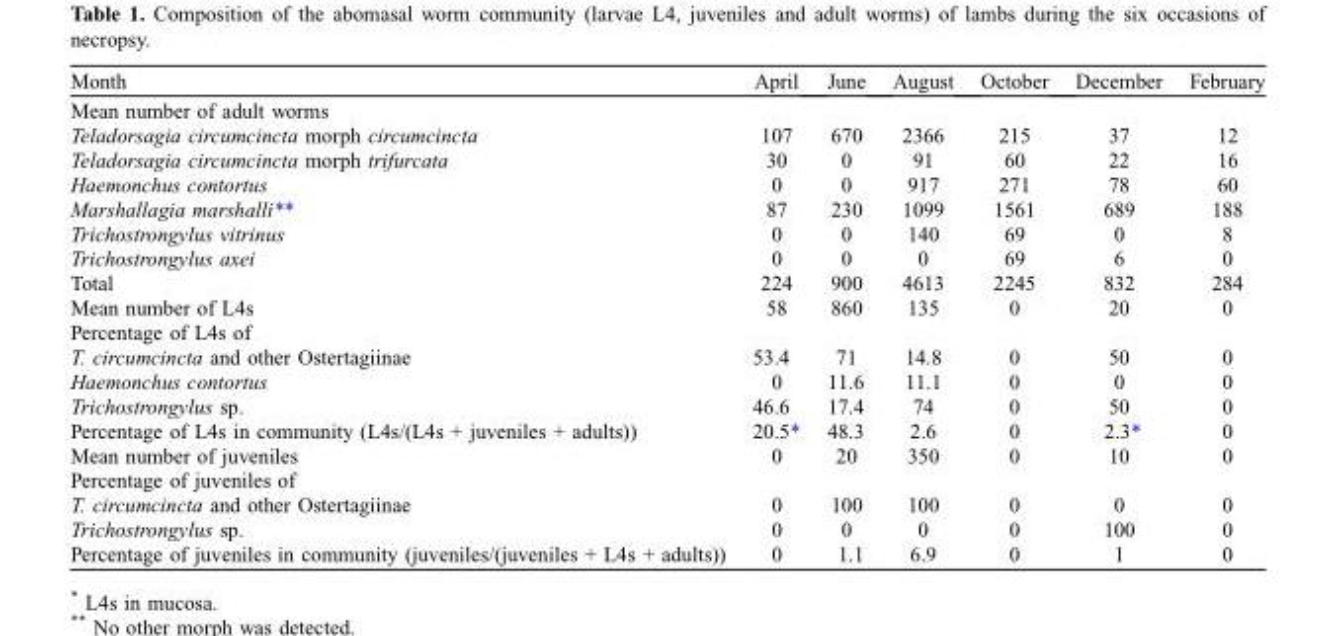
<table><thead><tr><td>Month</td><td>April</td><td>June</td><td>August</td><td>October</td><td>December</td><td>February</td></tr></thead><tbody><tr><td colspan="7">Mean number of adult worms</td></tr><tr><td>Teladorsagia circumcincta morph circumcincta</td><td>107</td><td>670</td><td>2366</td><td>215</td><td>37</td><td>12</td></tr><tr><td>Teladorsagia circumcincta morph trifurcata</td><td>30</td><td>0</td><td>91</td><td>60</td><td>22</td><td>16</td></tr><tr><td>Haemonchus contortus</td><td>0</td><td>0</td><td>917</td><td>271</td><td>78</td><td>60</td></tr><tr><td>Marshallagia marshalli**</td><td>87</td><td>230</td><td>1099</td><td>1561</td><td>689</td><td>188</td></tr><tr><td>Trichostrongylus vitrinus</td><td>0</td><td>0</td><td>140</td><td>69</td><td>0</td><td>8</td></tr><tr><td>Trichostrongylus axei</td><td>0</td><td>0</td><td>0</td><td>69</td><td>6</td><td>0</td></tr><tr><td>Total</td><td>224</td><td>900</td><td>4613</td><td>2245</td><td>832</td><td>284</td></tr><tr><td>Mean number of L4s</td><td>58</td><td>860</td><td>135</td><td>0</td><td>20</td><td>0</td></tr><tr><td colspan="7">Percentage of L4s of</td></tr><tr><td>T. circumcincta and other Ostertagiinae</td><td>53.4</td><td>71</td><td>14.8</td><td>0</td><td>50</td><td>0</td></tr><tr><td>Haemonchus contortus</td><td>0</td><td>11.6</td><td>11.1</td><td>0</td><td>0</td><td>0</td></tr><tr><td>Trichostrongylus sp.</td><td>46.6</td><td>17.4</td><td>74</td><td>0</td><td>50</td><td>0</td></tr><tr><td>Percentage of L4s in community (L4s/(L4s + juveniles + adults))</td><td>20.5*</td><td>48.3</td><td>2.6</td><td>0</td><td>2.3*</td><td>0</td></tr><tr><td>Mean number of juveniles</td><td>0</td><td>20</td><td>350</td><td>0</td><td>10</td><td>0</td></tr><tr><td colspan="7">Percentage of juveniles of</td></tr><tr><td>T. circumcincta and other Ostertagiinae</td><td>0</td><td>100</td><td>100</td><td>0</td><td>0</td><td>0</td></tr><tr><td>Trichostrongylus sp.</td><td>0</td><td>0</td><td>0</td><td>0</td><td>100</td><td>0</td></tr><tr><td>Percentage of juveniles in community (juveniles/(juveniles + L4s + adults))</td><td>0</td><td>1.1</td><td>6.9</td><td>0</td><td>1</td><td>0</td></tr></tbody></table>